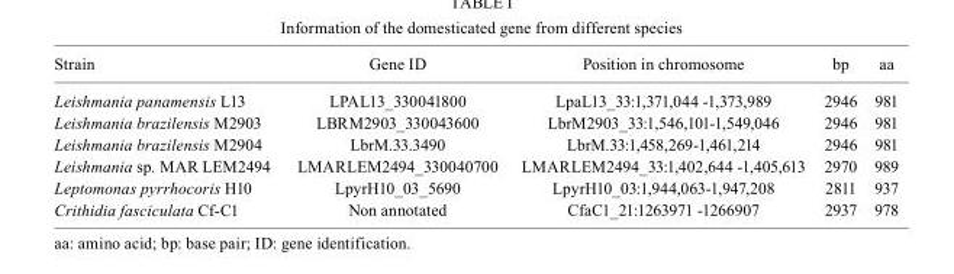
<table><thead><tr><td>Strain</td><td>Gene ID</td><td>Position in chromosome</td><td>bp</td><td>aa</td></tr></thead><tbody><tr><td>Leishmania panamensis L13</td><td>LPAL13_330041800</td><td>LpaL13_33:1,371,044 -1,373,989</td><td>2946</td><td>981</td></tr><tr><td>Leishmania brazilensis M2903</td><td>LBRM2903_330043600</td><td>LbrM2903_33:1,546,101-1,549,046</td><td>2946</td><td>981</td></tr><tr><td>Leishmania brazilensis M2904</td><td>LbrM.33.3490</td><td>LbrM.33:1,458,269-1,461,214</td><td>2946</td><td>981</td></tr><tr><td>Leishmania sp. MAR LEM2494</td><td>LMARLEM2494_330040700</td><td>LMARLEM2494_33:1,402,644 -1,405,613</td><td>2970</td><td>989</td></tr><tr><td>Leptomonas pyrrhocoris H10</td><td>LpyrH10_03_5690</td><td>LpyrH10_03:1,944,063-1,947,208</td><td>2811</td><td>937</td></tr><tr><td>Crithidia fasciculata Cf-C1</td><td>Non annotated</td><td>CfaC1_21:1263971 -1266907</td><td>2937</td><td>978</td></tr></tbody></table>